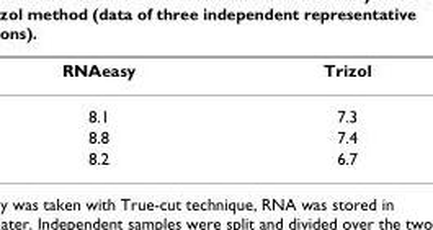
<table><thead><tr><td>RNAeasy</td><td>Trizol</td></tr></thead><tbody><tr><td>8.1</td><td>7.3</td></tr><tr><td>8.8</td><td>7.4</td></tr><tr><td>8.2</td><td>6.7</td></tr></tbody></table>